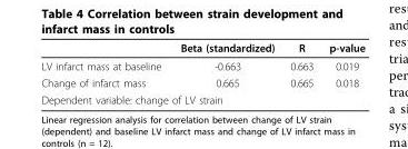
<table><thead><tr><td></td><td>Beta (standardized)</td><td>R</td><td>p-value</td></tr></thead><tbody><tr><td>LV infarct mass at baseline</td><td>-0.663</td><td>0.663</td><td>0.019</td></tr><tr><td>Change of infarct mass</td><td>0.665</td><td>0.665</td><td>0.018</td></tr><tr><td colspan="4">Dependent variable: change of LV strain</td></tr></tbody></table>